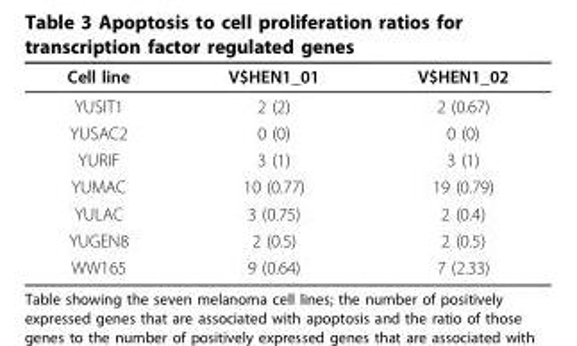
<table><thead><tr><td>Cell line</td><td>V$HEN1_01</td><td>V$HEN1_02</td></tr></thead><tbody><tr><td>YUSIT1</td><td>2 (2)</td><td>2 (0.67)</td></tr><tr><td>YUSAC2</td><td>0 (0)</td><td>0 (0)</td></tr><tr><td>YURIF</td><td>3 (1)</td><td>3 (1)</td></tr><tr><td>YUMAC</td><td>10 (0.77)</td><td>19 (0.79)</td></tr><tr><td>YULAC</td><td>3 (0.75)</td><td>2 (0.4)</td></tr><tr><td>YUGEN8</td><td>2 (0.5)</td><td>2 (0.5)</td></tr><tr><td>WW165</td><td>9 (0.64)</td><td>7 (2.33)</td></tr></tbody></table>